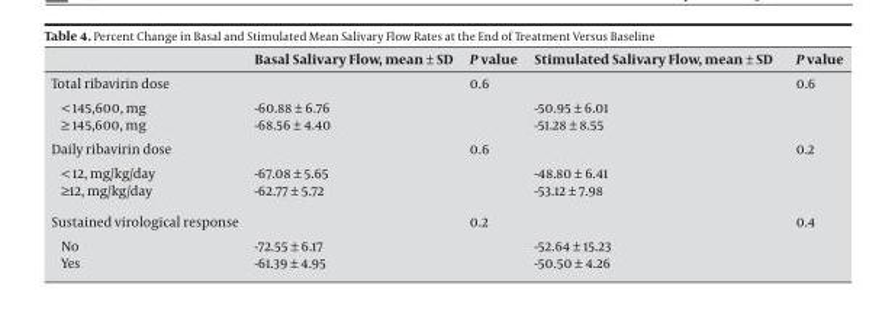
<table><thead><tr><td></td><td>Basal Salivary Flow, mean ± SD</td><td>P value</td><td>Stimulated Salivary Flow, mean ± SD</td><td>P value</td></tr></thead><tbody><tr><td>Total ribavirin dose</td><td></td><td>0.6</td><td></td><td>0.6</td></tr><tr><td>&lt; 145,600, mg</td><td>-60.88 ± 6.76</td><td></td><td>-50.95 ± 6.01</td><td></td></tr><tr><td>≥ 145,600, mg</td><td>-68.56 ± 4.40</td><td></td><td>-51.28 ± 8.55</td><td></td></tr><tr><td>Daily ribavirin dose</td><td></td><td>0.6</td><td></td><td>0.2</td></tr><tr><td>&lt; 12, mg/kg/day</td><td>-67.08 ± 5.65</td><td></td><td>-48.80 ± 6.41</td><td></td></tr><tr><td>≥12, mg/kg/day</td><td>-62.77 ± 5.72</td><td></td><td>-53.12 ± 7.98</td><td></td></tr><tr><td>Sustained virological response</td><td></td><td>0.2</td><td></td><td>0.4</td></tr><tr><td>No</td><td>-72.55 ± 6.17</td><td></td><td>-52.64 ± 15.23</td><td></td></tr><tr><td>Yes</td><td>-61.39 ± 4.95</td><td></td><td>-50.50 ± 4.26</td><td></td></tr></tbody></table>